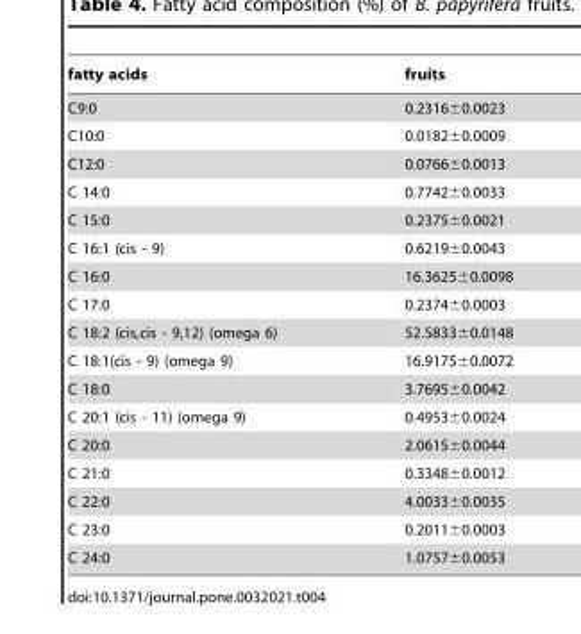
<table><thead><tr><td>fatty acids</td><td>fruits</td></tr></thead><tbody><tr><td>C9:0</td><td>0.2316±0.0023</td></tr><tr><td>C10:0</td><td>0.0182±0.0009</td></tr><tr><td>C12:0</td><td>0.0766±0.0013</td></tr><tr><td>C 14:0</td><td>0.7742±0.0033</td></tr><tr><td>C 15:0</td><td>0.2375±0.0021</td></tr><tr><td>C 16:1 (cis - 9)</td><td>0.6219±0.0043</td></tr><tr><td>C 16:0</td><td>16.3625±0.0098</td></tr><tr><td>C 17:0</td><td>0.2374±0.0003</td></tr><tr><td>C 18:2 (cis,cis - 9,12) (omega 6)</td><td>52.5833±0.0148</td></tr><tr><td>C 18:1(cis - 9) (omega 9)</td><td>16.9175±0.0072</td></tr><tr><td>C 18:0</td><td>3.7695±0.0042</td></tr><tr><td>C 20:1 (cis - 11) (omega 9)</td><td>0.4953±0.0024</td></tr><tr><td>C 20:0</td><td>2.0615±0.0044</td></tr><tr><td>C 21:0</td><td>0.3348±0.0012</td></tr><tr><td>C 22:0</td><td>4.0033±0.0035</td></tr><tr><td>C 23:0</td><td>0.2011±0.0003</td></tr><tr><td>C 24:0</td><td>1.0757±0.0053</td></tr></tbody></table>